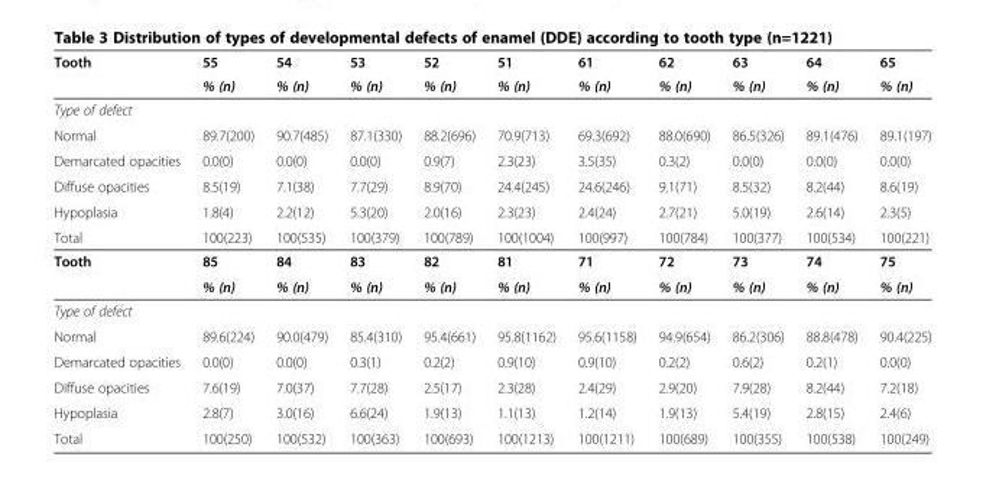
<table><thead><tr><td rowspan="2">Tooth</td><td rowspan="2">55 % (n)</td><td rowspan="2">54 % (n)</td><td rowspan="2">53 % (n)</td><td rowspan="2">52 % (n)</td><td rowspan="2">51 % (n)</td><td rowspan="2">61 % (n)</td><td rowspan="2">62 % (n)</td><td rowspan="2">63 % (n)</td><td rowspan="2">64 % (n)</td><td rowspan="2">65 % (n)</td></tr><tr></tr></thead><tbody><tr><td colspan="11">Type of defect</td></tr><tr><td>Normal</td><td>89.7(200)</td><td>90.7(485)</td><td>87.1(330)</td><td>88.2(696)</td><td>70.9(713)</td><td>69.3(692)</td><td>88.0(690)</td><td>86.5(326)</td><td>89.1(476)</td><td>89.1(197)</td></tr><tr><td>Demarcated opacities</td><td>0.0(0)</td><td>0.0(0)</td><td>0.0(0)</td><td>0.9(7)</td><td>2.3(23)</td><td>3.5(35)</td><td>0.3(2)</td><td>0.0(0)</td><td>0.0(0)</td><td>0.0(0)</td></tr><tr><td>Diffuse opacities</td><td>8.5(19)</td><td>7.1(38)</td><td>7.7(29)</td><td>8.9(70)</td><td>24.4(245)</td><td>24.6(246)</td><td>9.1(71)</td><td>8.5(32)</td><td>8.2(44)</td><td>8.6(19)</td></tr><tr><td>Hypoplasia</td><td>1.8(4)</td><td>2.2(12)</td><td>5.3(20)</td><td>2.0(16)</td><td>2.3(23)</td><td>2.4(24)</td><td>2.7(21)</td><td>5.0(19)</td><td>2.6(14)</td><td>2.3(5)</td></tr><tr><td>Total</td><td>100(223)</td><td>100(535)</td><td>100(379)</td><td>100(789)</td><td>100(1004)</td><td>100(997)</td><td>100(784)</td><td>100(377)</td><td>100(534)</td><td>100(221)</td></tr><tr><td rowspan="2">Tooth</td><td>85</td><td>84</td><td>83</td><td>82</td><td>81</td><td>71</td><td>72</td><td>73</td><td>74</td><td>75</td></tr><tr><td>% (n)</td><td>% (n)</td><td>% (n)</td><td>% (n)</td><td>% (n)</td><td>% (n)</td><td>% (n)</td><td>% (n)</td><td>% (n)</td><td>% (n)</td></tr><tr><td colspan="11">Type of defect</td></tr><tr><td>Normal</td><td>89.6(224)</td><td>90.0(479)</td><td>85.4(310)</td><td>95.4(661)</td><td>95.8(1162)</td><td>95.6(1158)</td><td>94.9(654)</td><td>86.2(306)</td><td>88.8(478)</td><td>90.4(225)</td></tr><tr><td>Demarcated opacities</td><td>0.0(0)</td><td>0.0(0)</td><td>0.3(1)</td><td>0.2(2)</td><td>0.9(10)</td><td>0.9(10)</td><td>0.2(2)</td><td>0.6(2)</td><td>0.2(1)</td><td>0.0(0)</td></tr><tr><td>Diffuse opacities</td><td>7.6(19)</td><td>7.0(37)</td><td>7.7(28)</td><td>2.5(17)</td><td>2.3(28)</td><td>2.4(29)</td><td>2.9(20)</td><td>7.9(28)</td><td>8.2(44)</td><td>7.2(18)</td></tr><tr><td>Hypoplasia</td><td>2.8(7)</td><td>3.0(16)</td><td>6.6(24)</td><td>1.9(13)</td><td>1.1(13)</td><td>1.2(14)</td><td>1.9(13)</td><td>5.4(19)</td><td>2.8(15)</td><td>2.4(6)</td></tr><tr><td>Total</td><td>100(250)</td><td>100(532)</td><td>100(363)</td><td>100(693)</td><td>100(1213)</td><td>100(1211)</td><td>100(689)</td><td>100(355)</td><td>100(538)</td><td>100(249)</td></tr></tbody></table>